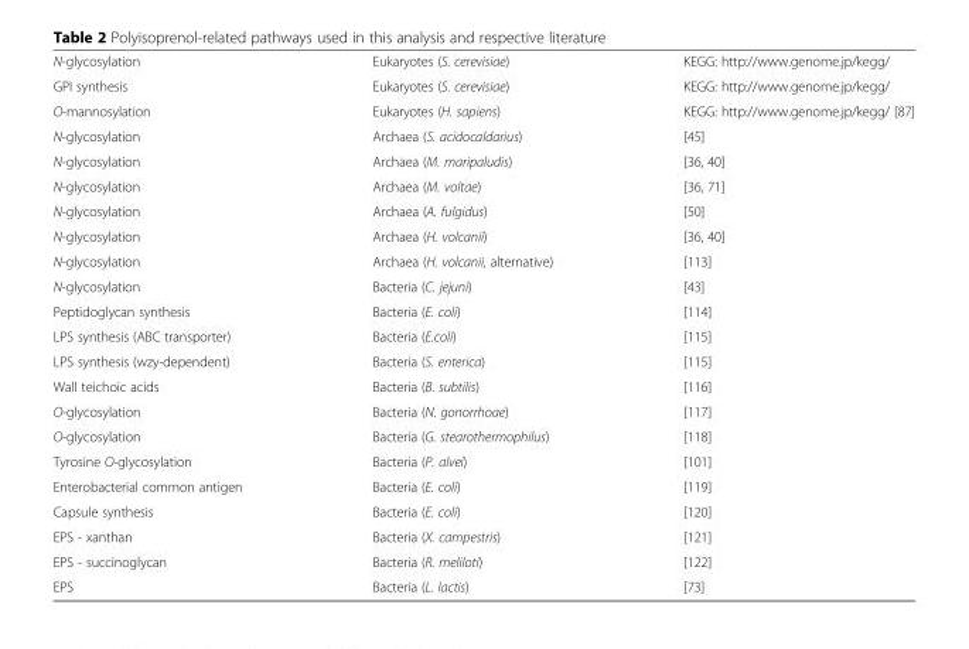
<table><tbody><tr><td>N-glycosylation</td><td>Eukaryotes (S. cerevisiae)</td><td>KEGG: http://www.genome.jp/kegg/</td></tr><tr><td>GPI synthesis</td><td>Eukaryotes (S. cerevisiae)</td><td>KEGG: http://www.genome.jp/kegg/</td></tr><tr><td>O-mannosylation</td><td>Eukaryotes (H. sapiens)</td><td>KEGG: http://www.genome.jp/kegg/ [87]</td></tr><tr><td>N-glycosylation</td><td>Archaea (S. acidocaldarius)</td><td>[45]</td></tr><tr><td>N-glycosylation</td><td>Archaea (M. maripaludis)</td><td>[36, 40]</td></tr><tr><td>N-glycosylation</td><td>Archaea (M. voltae)</td><td>[36, 71]</td></tr><tr><td>N-glycosylation</td><td>Archaea (A. fulgidus)</td><td>[50]</td></tr><tr><td>N-glycosylation</td><td>Archaea (H. volcanii)</td><td>[36, 40]</td></tr><tr><td>N-glycosylation</td><td>Archaea (H. volcanii, alternative)</td><td>[113]</td></tr><tr><td>N-glycosylation</td><td>Bacteria (C. jejuni)</td><td>[43]</td></tr><tr><td>Peptidoglycan synthesis</td><td>Bacteria (E. coli)</td><td>[114]</td></tr><tr><td>LPS synthesis (ABC transporter)</td><td>Bacteria (E.coli)</td><td>[115]</td></tr><tr><td>LPS synthesis (wzy-dependent)</td><td>Bacteria (S. enterica)</td><td>[115]</td></tr><tr><td>Wall teichoic acids</td><td>Bacteria (B. subtilis)</td><td>[116]</td></tr><tr><td>O-glycosylation</td><td>Bacteria (N. gonorrhoae)</td><td>[117]</td></tr><tr><td>O-glycosylation</td><td>Bacteria (G. stearothermophilus)</td><td>[118]</td></tr><tr><td>Tyrosine O-glycosylation</td><td>Bacteria (P. alvei)</td><td>[101]</td></tr><tr><td>Enterobacterial common antigen</td><td>Bacteria (E. coli)</td><td>[119]</td></tr><tr><td>Capsule synthesis</td><td>Bacteria (E. coli)</td><td>[120]</td></tr><tr><td>EPS - xanthan</td><td>Bacteria (X. campestris)</td><td>[121]</td></tr><tr><td>EPS - succinoglycan</td><td>Bacteria (R. meliloti)</td><td>[122]</td></tr><tr><td>EPS</td><td>Bacteria (L. lactis)</td><td>[73]</td></tr></tbody></table>